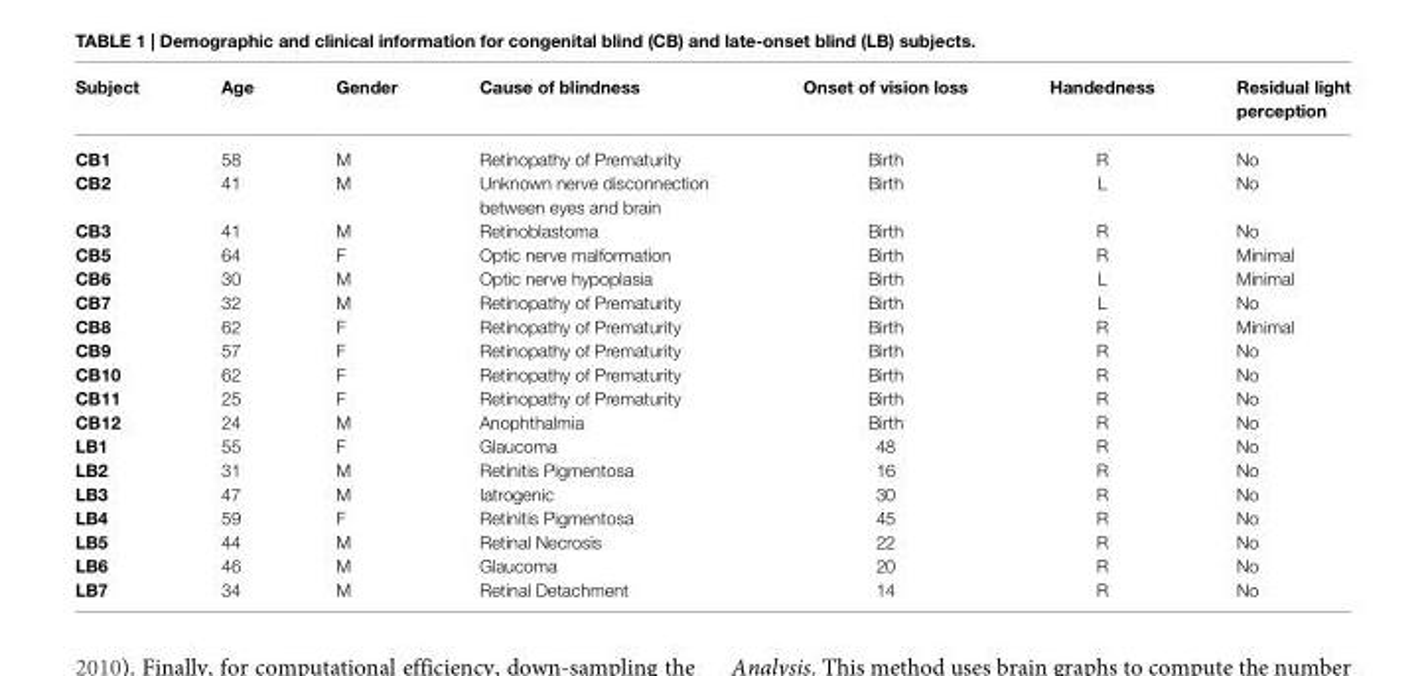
<table><thead><tr><td>Subject</td><td>Age</td><td>Gender</td><td>Cause of blindness</td><td>Onset of vision loss</td><td>Handedness</td><td>Residual light perception</td></tr></thead><tbody><tr><td>CB1</td><td>58</td><td>M</td><td>Retinopathy of Prematurity</td><td>Birth</td><td>R</td><td>No</td></tr><tr><td>CB2</td><td>41</td><td>M</td><td>Unknown nerve disconnection between eyes and brain</td><td>Birth</td><td>L</td><td>No</td></tr><tr><td>CB3</td><td>41</td><td>M</td><td>Retinoblastoma</td><td>Birth</td><td>R</td><td>No</td></tr><tr><td>CB5</td><td>64</td><td>F</td><td>Optic nerve malformation</td><td>Birth</td><td>R</td><td>Minimal</td></tr><tr><td>CB6</td><td>30</td><td>M</td><td>Optic nerve hypoplasia</td><td>Birth</td><td>L</td><td>Minimal</td></tr><tr><td>CB7</td><td>32</td><td>M</td><td>Retinopathy of Prematurity</td><td>Birth</td><td>L</td><td>No</td></tr><tr><td>CB8</td><td>62</td><td>F</td><td>Retinopathy of Prematurity</td><td>Birth</td><td>R</td><td>Minimal</td></tr><tr><td>CB9</td><td>57</td><td>F</td><td>Retinopathy of Prematurity</td><td>Birth</td><td>R</td><td>No</td></tr><tr><td>CB10</td><td>62</td><td>F</td><td>Retinopathy of Prematurity</td><td>Birth</td><td>R</td><td>No</td></tr><tr><td>CB11</td><td>25</td><td>F</td><td>Retinopathy of Prematurity</td><td>Birth</td><td>R</td><td>No</td></tr><tr><td>CB12</td><td>24</td><td>M</td><td>Anophthalmia</td><td>Birth</td><td>R</td><td>No</td></tr><tr><td>LB1</td><td>55</td><td>F</td><td>Glaucoma</td><td>48</td><td>R</td><td>No</td></tr><tr><td>LB2</td><td>31</td><td>M</td><td>Retinitis Pigmentosa</td><td>16</td><td>R</td><td>No</td></tr><tr><td>LB3</td><td>47</td><td>M</td><td>Iatrogenic</td><td>30</td><td>R</td><td>No</td></tr><tr><td>LB4</td><td>59</td><td>F</td><td>Retinitis Pigmentosa</td><td>45</td><td>R</td><td>No</td></tr><tr><td>LB5</td><td>44</td><td>M</td><td>Retinal Necrosis</td><td>22</td><td>R</td><td>No</td></tr><tr><td>LB6</td><td>46</td><td>M</td><td>Glaucoma</td><td>20</td><td>R</td><td>No</td></tr><tr><td>LB7</td><td>34</td><td>M</td><td>Retinal Detachment</td><td>14</td><td>R</td><td>No</td></tr></tbody></table>